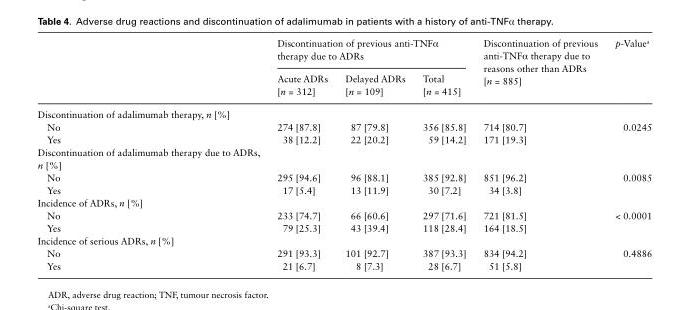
<table><thead><tr><td rowspan="2"></td><td colspan="3">Discontinuation of previous anti-TNFα therapy due to ADRs</td><td rowspan="2">Discontinuation of previous anti-TNFα therapy due to reasons other than ADRs [n = 885]</td><td rowspan="2">p-Value<sup>a</sup></td></tr><tr><td>Acute ADRs [n = 312]</td><td>Delayed ADRs [n = 109]</td><td>Total [n = 415]</td></tr></thead><tbody><tr><td colspan="6">Discontinuation of adalimumab therapy, n [%]</td></tr><tr><td>No</td><td>274 [87.8]</td><td>87 [79.8]</td><td>356 [85.8]</td><td>714 [80.7]</td><td>0.0245</td></tr><tr><td>Yes</td><td>38 [12.2]</td><td>22 [20.2]</td><td>59 [14.2]</td><td>171 [19.3]</td><td></td></tr><tr><td colspan="6">Discontinuation of adalimumab therapy due to ADRs, n [%]</td></tr><tr><td>No</td><td>295 [94.6]</td><td>96 [88.1]</td><td>385 [92.8]</td><td>851 [96.2]</td><td>0.0085</td></tr><tr><td>Yes</td><td>17 [5.4]</td><td>13 [11.9]</td><td>30 [7.2]</td><td>34 [3.8]</td><td></td></tr><tr><td colspan="6">Incidence of ADRs, n [%]</td></tr><tr><td>No</td><td>233 [74.7]</td><td>66 [60.6]</td><td>297 [71.6]</td><td>721 [81.5]</td><td>&lt; 0.0001</td></tr><tr><td>Yes</td><td>79 [25.3]</td><td>43 [39.4]</td><td>118 [28.4]</td><td>164 [18.5]</td><td></td></tr><tr><td colspan="6">Incidence of serious ADRs, n [%]</td></tr><tr><td>No</td><td>291 [93.3]</td><td>101 [92.7]</td><td>387 [93.3]</td><td>834 [94.2]</td><td>0.4886</td></tr><tr><td>Yes</td><td>21 [6.7]</td><td>8 [7.3]</td><td>28 [6.7]</td><td>51 [5.8]</td><td></td></tr></tbody></table>